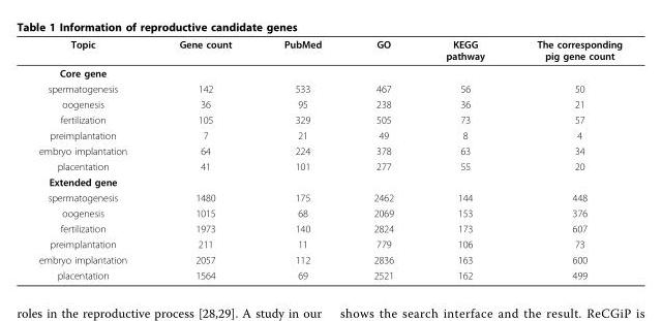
<table><thead><tr><td>Topic</td><td>Gene count</td><td>PubMed</td><td>GO</td><td>KEGG pathway</td><td>The corresponding pig gene count</td></tr></thead><tbody><tr><td colspan="6">Core gene</td></tr><tr><td>spermatogenesis</td><td>142</td><td>533</td><td>467</td><td>56</td><td>50</td></tr><tr><td>oogenesis</td><td>36</td><td>95</td><td>238</td><td>36</td><td>21</td></tr><tr><td>fertilization</td><td>105</td><td>329</td><td>505</td><td>73</td><td>57</td></tr><tr><td>preimplantation</td><td>7</td><td>21</td><td>49</td><td>8</td><td>4</td></tr><tr><td>embryo implantation</td><td>64</td><td>224</td><td>378</td><td>63</td><td>34</td></tr><tr><td>placentation</td><td>41</td><td>101</td><td>277</td><td>55</td><td>20</td></tr><tr><td colspan="6">Extended gene</td></tr><tr><td>spermatogenesis</td><td>1480</td><td>175</td><td>2462</td><td>144</td><td>448</td></tr><tr><td>oogenesis</td><td>1015</td><td>68</td><td>2069</td><td>153</td><td>376</td></tr><tr><td>fertilization</td><td>1973</td><td>140</td><td>2824</td><td>173</td><td>607</td></tr><tr><td>preimplantation</td><td>211</td><td>11</td><td>779</td><td>106</td><td>73</td></tr><tr><td>embryo implantation</td><td>2057</td><td>112</td><td>2836</td><td>163</td><td>600</td></tr><tr><td>placentation</td><td>1564</td><td>69</td><td>2521</td><td>162</td><td>499</td></tr></tbody></table>